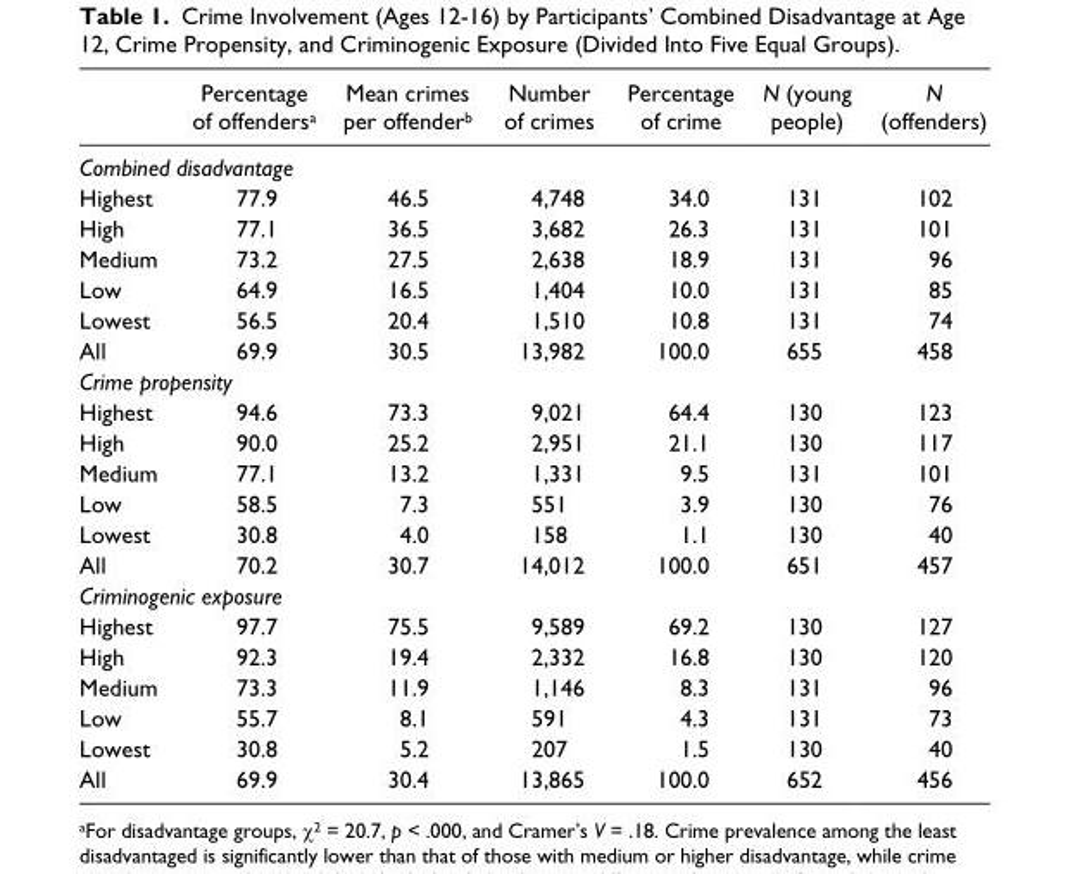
<table><thead><tr><td></td><td>Percentage of offenders<sup>a</sup></td><td>Mean crimes per offender<sup>b</sup></td><td>Number of crimes</td><td>Percentage of crime</td><td>N (young people)</td><td>N (offenders)</td></tr></thead><tbody><tr><td colspan="7">Combined disadvantage</td></tr><tr><td>Highest</td><td>77.9</td><td>46.5</td><td>4,748</td><td>34.0</td><td>131</td><td>102</td></tr><tr><td>High</td><td>77.1</td><td>36.5</td><td>3,682</td><td>26.3</td><td>131</td><td>101</td></tr><tr><td>Medium</td><td>73.2</td><td>27.5</td><td>2,638</td><td>18.9</td><td>131</td><td>96</td></tr><tr><td>Low</td><td>64.9</td><td>16.5</td><td>1,404</td><td>10.0</td><td>131</td><td>85</td></tr><tr><td>Lowest</td><td>56.5</td><td>20.4</td><td>1,510</td><td>10.8</td><td>131</td><td>74</td></tr><tr><td>All</td><td>69.9</td><td>30.5</td><td>13,982</td><td>100.0</td><td>655</td><td>458</td></tr><tr><td colspan="7">Crime propensity</td></tr><tr><td>Highest</td><td>94.6</td><td>73.3</td><td>9,021</td><td>64.4</td><td>130</td><td>123</td></tr><tr><td>High</td><td>90.0</td><td>25.2</td><td>2,951</td><td>21.1</td><td>130</td><td>117</td></tr><tr><td>Medium</td><td>77.1</td><td>13.2</td><td>1,331</td><td>9.5</td><td>131</td><td>101</td></tr><tr><td>Low</td><td>58.5</td><td>7.3</td><td>551</td><td>3.9</td><td>130</td><td>76</td></tr><tr><td>Lowest</td><td>30.8</td><td>4.0</td><td>158</td><td>1.1</td><td>130</td><td>40</td></tr><tr><td>All</td><td>70.2</td><td>30.7</td><td>14,012</td><td>100.0</td><td>651</td><td>457</td></tr><tr><td colspan="7">Criminogenic exposure</td></tr><tr><td>Highest</td><td>97.7</td><td>75.5</td><td>9,589</td><td>69.2</td><td>130</td><td>127</td></tr><tr><td>High</td><td>92.3</td><td>19.4</td><td>2,332</td><td>16.8</td><td>130</td><td>120</td></tr><tr><td>Medium</td><td>73.3</td><td>11.9</td><td>1,146</td><td>8.3</td><td>131</td><td>96</td></tr><tr><td>Low</td><td>55.7</td><td>8.1</td><td>591</td><td>4.3</td><td>131</td><td>73</td></tr><tr><td>Lowest</td><td>30.8</td><td>5.2</td><td>207</td><td>1.5</td><td>130</td><td>40</td></tr><tr><td>All</td><td>69.9</td><td>30.4</td><td>13,865</td><td>100.0</td><td>652</td><td>456</td></tr></tbody></table>